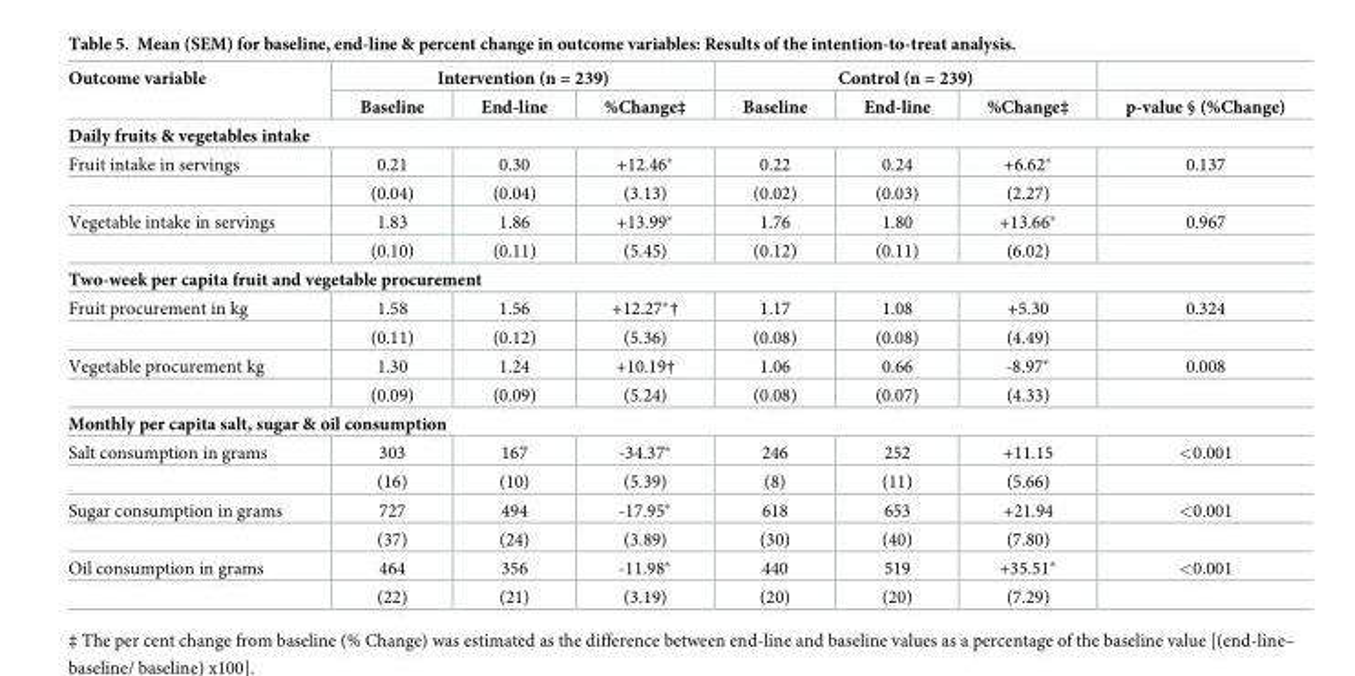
<table><thead><tr><td rowspan="2">Outcome variable</td><td colspan="3">Intervention (n = 239)</td><td colspan="3">Control (n = 239)</td><td rowspan="2">p-value § (%Change)</td></tr><tr><td>Baseline</td><td>End-line</td><td>%Change‡</td><td>Baseline</td><td>End-line</td><td>%Change‡</td></tr></thead><tbody><tr><td colspan="8">Daily fruits &amp; vegetables intake</td></tr><tr><td rowspan="2">Fruit intake in servings</td><td>0.21</td><td>0.30</td><td>+12.46*</td><td>0.22</td><td>0.24</td><td>+6.62*</td><td>0.137</td></tr><tr><td>(0.04)</td><td>(0.04)</td><td>(3.13)</td><td>(0.02)</td><td>(0.03)</td><td>(2.27)</td><td></td></tr><tr><td rowspan="2">Vegetable intake in servings</td><td>1.83</td><td>1.86</td><td>+13.99*</td><td>1.76</td><td>1.80</td><td>+13.66*</td><td>0.967</td></tr><tr><td>(0.10)</td><td>(0.11)</td><td>(5.45)</td><td>(0.12)</td><td>(0.11)</td><td>(6.02)</td><td></td></tr><tr><td colspan="8">Two-week per capita fruit and vegetable procurement</td></tr><tr><td rowspan="2">Fruit procurement in kg</td><td>1.58</td><td>1.56</td><td>+12.27*†</td><td>1.17</td><td>1.08</td><td>+5.30</td><td>0.324</td></tr><tr><td>(0.11)</td><td>(0.12)</td><td>(5.36)</td><td>(0.08)</td><td>(0.08)</td><td>(4.49)</td><td></td></tr><tr><td rowspan="2">Vegetable procurement kg</td><td>1.30</td><td>1.24</td><td>+10.19†</td><td>1.06</td><td>0.66</td><td>-8.97*</td><td>0.008</td></tr><tr><td>(0.09)</td><td>(0.09)</td><td>(5.24)</td><td>(0.08)</td><td>(0.07)</td><td>(4.33)</td><td></td></tr><tr><td colspan="8">Monthly per capita salt, sugar &amp; oil consumption</td></tr><tr><td rowspan="2">Salt consumption in grams</td><td>303</td><td>167</td><td>-34.37*</td><td>246</td><td>252</td><td>+11.15</td><td>&lt;0.001</td></tr><tr><td>(16)</td><td>(10)</td><td>(5.39)</td><td>(8)</td><td>(11)</td><td>(5.66)</td><td></td></tr><tr><td rowspan="2">Sugar consumption in grams</td><td>727</td><td>494</td><td>-17.95*</td><td>618</td><td>653</td><td>+21.94</td><td>&lt;0.001</td></tr><tr><td>(37)</td><td>(24)</td><td>(3.89)</td><td>(30)</td><td>(40)</td><td>(7.80)</td><td></td></tr><tr><td rowspan="2">Oil consumption in grams</td><td>464</td><td>356</td><td>-11.98*</td><td>440</td><td>519</td><td>+35.51*</td><td>&lt;0.001</td></tr><tr><td>(22)</td><td>(21)</td><td>(3.19)</td><td>(20)</td><td>(20)</td><td>(7.29)</td><td></td></tr></tbody></table>